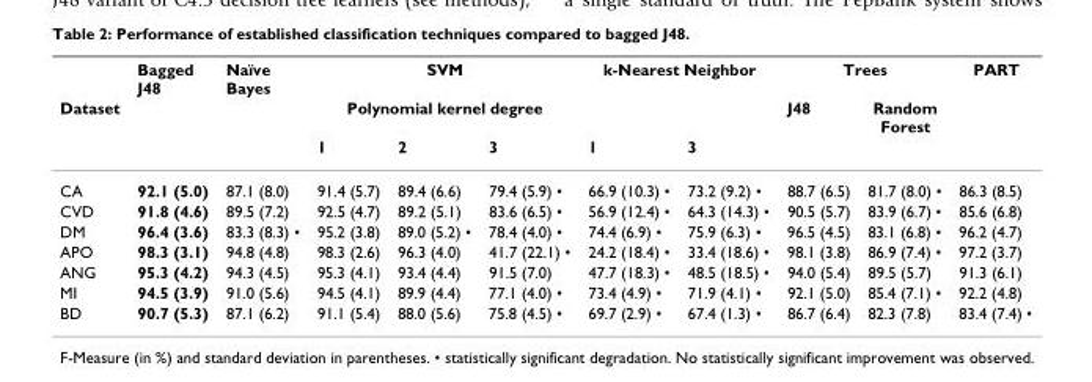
<table><thead><tr><td rowspan="3">Dataset</td><td rowspan="3">Bagged J48</td><td rowspan="3">Naïve Bayes</td><td rowspan="2" colspan="3">SVM Polynomial kernel degree</td><td colspan="2">k-Nearest Neighbor</td><td colspan="2">Trees</td><td rowspan="3">PART</td></tr><tr><td rowspan="2">1</td><td rowspan="2">3</td><td rowspan="2">J48</td><td rowspan="2">Random Forest</td></tr><tr><td>1</td><td>2</td><td>3</td></tr></thead><tbody><tr><td>CA</td><td>92.1 (5.0)</td><td>87.1 (8.0)</td><td>91.4 (5.7)</td><td>89.4 (6.6)</td><td>79.4 (5.9) •</td><td>66.9 (10.3) •</td><td>73.2 (9.2) •</td><td>88.7 (6.5)</td><td>81.7 (8.0) •</td><td>86.3 (8.5)</td></tr><tr><td>CVD</td><td>91.8 (4.6)</td><td>89.5 (7.2)</td><td>92.5 (4.7)</td><td>89.2 (5.1)</td><td>83.6 (6.5) •</td><td>56.9 (12.4) •</td><td>64.3 (14.3) •</td><td>90.5 (5.7)</td><td>83.9 (6.7) •</td><td>85.6 (6.8)</td></tr><tr><td>DM</td><td>96.4 (3.6)</td><td>83.3 (8.3) •</td><td>95.2 (3.8)</td><td>89.0 (5.2) •</td><td>78.4 (4.0) •</td><td>74.4 (6.9) •</td><td>75.9 (6.3) •</td><td>96.5 (4.5)</td><td>83.1 (6.8) •</td><td>96.2 (4.7)</td></tr><tr><td>APO</td><td>98.3 (3.1)</td><td>94.8 (4.8)</td><td>98.3 (2.6)</td><td>96.3 (4.0)</td><td>41.7 (22.1) •</td><td>24.2 (18.4) •</td><td>33.4 (18.6) •</td><td>98.1 (3.8)</td><td>86.9 (7.4) •</td><td>97.2 (3.7)</td></tr><tr><td>ANG</td><td>95.3 (4.2)</td><td>94.3 (4.5)</td><td>95.3 (4.1)</td><td>93.4 (4.4)</td><td>91.5 (7.0)</td><td>47.7 (18.3) •</td><td>48.5 (18.5) •</td><td>94.0 (5.4)</td><td>89.5 (5.7)</td><td>91.3 (6.1)</td></tr><tr><td>MI</td><td>94.5 (3.9)</td><td>91.0 (5.6)</td><td>94.5 (4.1)</td><td>89.9 (4.4)</td><td>77.1 (4.0) •</td><td>73.4 (4.9) •</td><td>71.9 (4.1) •</td><td>92.1 (5.0)</td><td>85.4 (7.1) •</td><td>92.2 (4.8)</td></tr><tr><td>BD</td><td>90.7 (5.3)</td><td>87.1 (6.2)</td><td>91.1 (5.4)</td><td>88.0 (5.6)</td><td>75.8 (4.5) •</td><td>69.7 (2.9) •</td><td>67.4 (1.3) •</td><td>86.7 (6.4)</td><td>82.3 (7.8)</td><td>83.4 (7.4) •</td></tr></tbody></table>